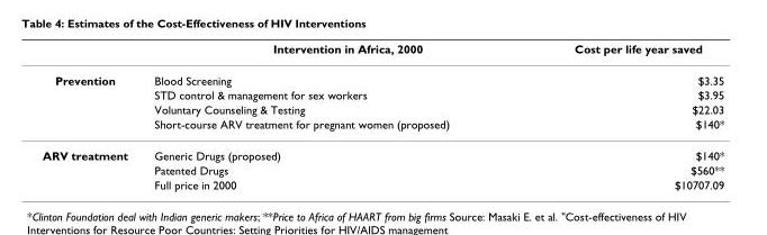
<table><thead><tr><td></td><td>Intervention in Africa, 2000</td><td>Cost per life year saved</td></tr></thead><tbody><tr><td rowspan="4">Prevention</td><td>Blood Screening</td><td>$3.35</td></tr><tr><td>STD control &amp; management for sex workers</td><td>$3.95</td></tr><tr><td>Voluntary Counseling &amp; Testing</td><td>$22.03</td></tr><tr><td>Short-course ARV treatment for pregnant women (proposed)</td><td>$140*</td></tr><tr><td rowspan="3">ARV treatment</td><td>Generic Drugs (proposed)</td><td>$140*</td></tr><tr><td>Patented Drugs</td><td>$560**</td></tr><tr><td>Full price in 2000</td><td>$10707.09</td></tr></tbody></table>